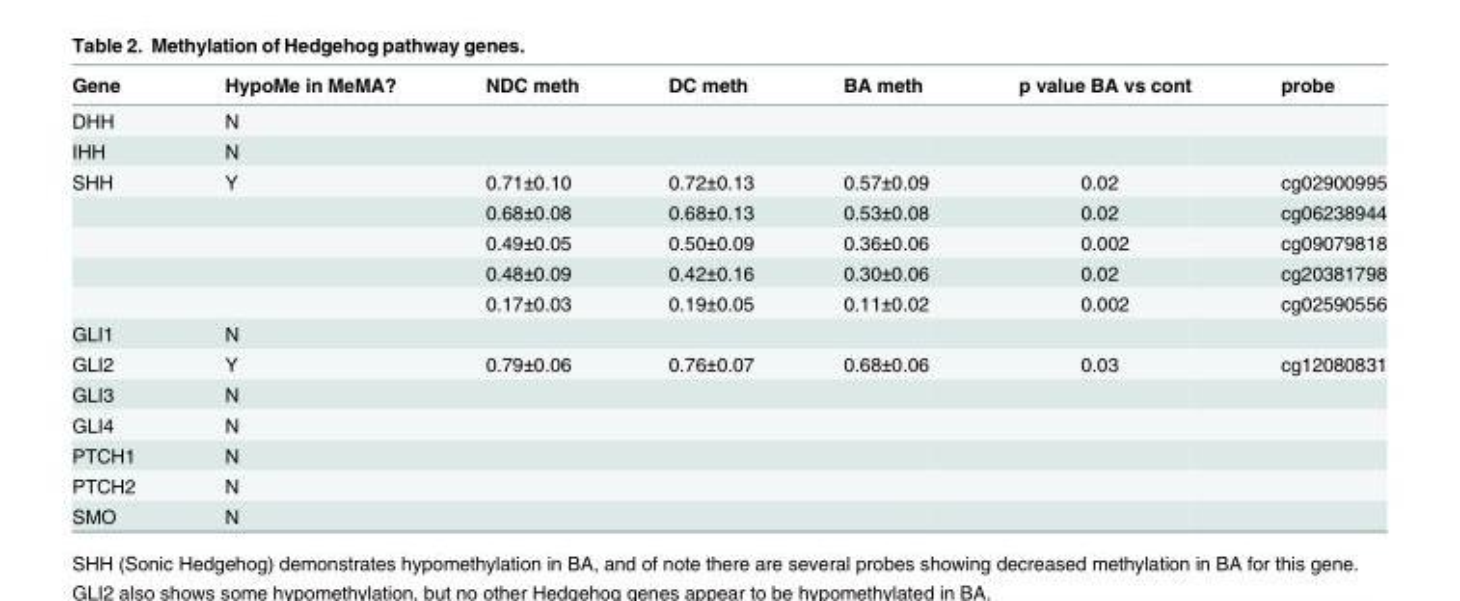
<table><thead><tr><td>Gene</td><td>HypoMe in MeMA?</td><td>NDC meth</td><td>DC meth</td><td>BA meth</td><td>p value BA vs cont</td><td>probe</td></tr></thead><tbody><tr><td>DHH</td><td>N</td><td></td><td></td><td></td><td></td><td></td></tr><tr><td>IHH</td><td>N</td><td></td><td></td><td></td><td></td><td></td></tr><tr><td rowspan="5">SHH</td><td>Y</td><td>0.71±0.10</td><td>0.72±0.13</td><td>0.57±0.09</td><td>0.02</td><td>cg02900995</td></tr><tr><td></td><td>0.68±0.08</td><td>0.68±0.13</td><td>0.53±0.08</td><td>0.02</td><td>cg06238944</td></tr><tr><td></td><td>0.49±0.05</td><td>0.50±0.09</td><td>0.36±0.06</td><td>0.002</td><td>cg09079818</td></tr><tr><td></td><td>0.48±0.09</td><td>0.42±0.16</td><td>0.30±0.06</td><td>0.02</td><td>cg20381798</td></tr><tr><td></td><td>0.17±0.03</td><td>0.19±0.05</td><td>0.11±0.02</td><td>0.002</td><td>cg02590556</td></tr><tr><td>GLI1</td><td>N</td><td></td><td></td><td></td><td></td><td></td></tr><tr><td>GLI2</td><td>Y</td><td>0.79±0.06</td><td>0.76±0.07</td><td>0.68±0.06</td><td>0.03</td><td>cg12080831</td></tr><tr><td>GLI3</td><td>N</td><td></td><td></td><td></td><td></td><td></td></tr><tr><td>GLI4</td><td>N</td><td></td><td></td><td></td><td></td><td></td></tr><tr><td>PTCH1</td><td>N</td><td></td><td></td><td></td><td></td><td></td></tr><tr><td>PTCH2</td><td>N</td><td></td><td></td><td></td><td></td><td></td></tr><tr><td>SMO</td><td>N</td><td></td><td></td><td></td><td></td><td></td></tr></tbody></table>